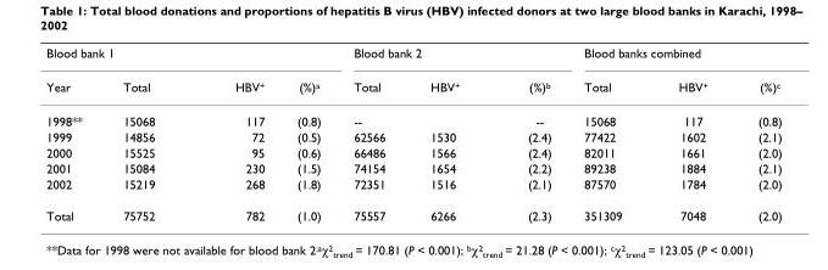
<table><thead><tr><td colspan="4">Blood bank 1</td><td colspan="3">Blood bank 2</td><td colspan="3">Blood banks combined</td></tr><tr><td>Year</td><td>Total</td><td>HBV+</td><td>(%)a</td><td>Total</td><td>HBV+</td><td>(%)b</td><td>Total</td><td>HBV+</td><td>(%)c</td></tr></thead><tbody><tr><td>1998**</td><td>15068</td><td>117</td><td>(0.8)</td><td>--</td><td></td><td>--</td><td>15068</td><td>117</td><td>(0.8)</td></tr><tr><td>1999</td><td>14856</td><td>72</td><td>(0.5)</td><td>62566</td><td>1530</td><td>(2.4)</td><td>77422</td><td>1602</td><td>(2.1)</td></tr><tr><td>2000</td><td>15525</td><td>95</td><td>(0.6)</td><td>66486</td><td>1566</td><td>(2.4)</td><td>82011</td><td>1661</td><td>(2.0)</td></tr><tr><td>2001</td><td>15084</td><td>230</td><td>(1.5)</td><td>74154</td><td>1654</td><td>(2.2)</td><td>89238</td><td>1884</td><td>(2.1)</td></tr><tr><td>2002</td><td>15219</td><td>268</td><td>(1.8)</td><td>72351</td><td>1516</td><td>(2.1)</td><td>87570</td><td>1784</td><td>(2.0)</td></tr><tr><td>Total</td><td>75752</td><td>782</td><td>(1.0)</td><td>75557</td><td>6266</td><td>(2.3)</td><td>351309</td><td>7048</td><td>(2.0)</td></tr></tbody></table>